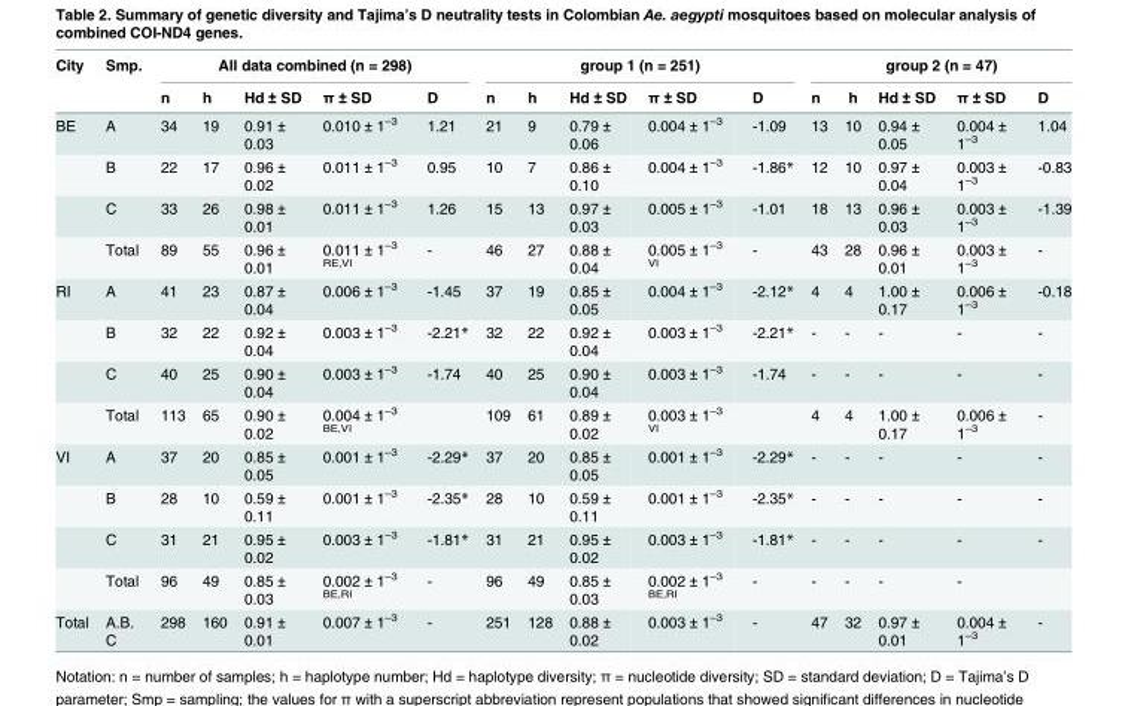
<table><thead><tr><td rowspan="2">City</td><td rowspan="2">Smp.</td><td colspan="5">All data combined (n = 298)</td><td colspan="5">group 1 (n = 251)</td><td colspan="5">group 2 (n = 47)</td></tr><tr><td>n</td><td>h</td><td>Hd ± SD</td><td>π ± SD</td><td>D</td><td>n</td><td>h</td><td>Hd ± SD</td><td>π ± SD</td><td>D</td><td>n</td><td>h</td><td>Hd ± SD</td><td>π ± SD</td><td>D</td></tr></thead><tbody><tr><td rowspan="4">BE</td><td>A</td><td>34</td><td>19</td><td>0.91 ± 0.03</td><td>0.010 ± 1<sup>–3</sup></td><td>1.21</td><td>21</td><td>9</td><td>0.79 ± 0.06</td><td>0.004 ± 1<sup>–3</sup></td><td>-1.09</td><td>13</td><td>10</td><td>0.94 ± 0.05</td><td>0.004 ± 1<sup>–3</sup></td><td>1.04</td></tr><tr><td>B</td><td>22</td><td>17</td><td>0.96 ± 0.02</td><td>0.011 ± 1<sup>–3</sup></td><td>0.95</td><td>10</td><td>7</td><td>0.86 ± 0.10</td><td>0.004 ± 1<sup>–3</sup></td><td>-1.86*</td><td>12</td><td>10</td><td>0.97 ± 0.04</td><td>0.003 ± 1<sup>–3</sup></td><td>-0.83</td></tr><tr><td>C</td><td>33</td><td>26</td><td>0.98 ± 0.01</td><td>0.011 ± 1<sup>–3</sup></td><td>1.26</td><td>15</td><td>13</td><td>0.97 ± 0.03</td><td>0.005 ± 1<sup>–3</sup></td><td>-1.01</td><td>18</td><td>13</td><td>0.96 ± 0.03</td><td>0.003 ± 1<sup>–3</sup></td><td>-1.39</td></tr><tr><td>Total</td><td>89</td><td>55</td><td>0.96 ± 0.01</td><td>0.011 ± 1<sup>–3 RE,VI</sup></td><td>-</td><td>46</td><td>27</td><td>0.88 ± 0.04</td><td>0.005 ± 1<sup>–3 VI</sup></td><td>-</td><td>43</td><td>28</td><td>0.96 ± 0.01</td><td>0.003 ± 1<sup>–3</sup></td><td>-</td></tr><tr><td rowspan="4">RI</td><td>A</td><td>41</td><td>23</td><td>0.87 ± 0.04</td><td>0.006 ± 1<sup>–3</sup></td><td>-1.45</td><td>37</td><td>19</td><td>0.85 ± 0.05</td><td>0.004 ± 1<sup>–3</sup></td><td>-2.12*</td><td>4</td><td>4</td><td>1.00 ± 0.17</td><td>0.006 ± 1<sup>–3</sup></td><td>-0.18</td></tr><tr><td>B</td><td>32</td><td>22</td><td>0.92 ± 0.04</td><td>0.003 ± 1<sup>–3</sup></td><td>-2.21*</td><td>32</td><td>22</td><td>0.92 ± 0.04</td><td>0.003 ± 1<sup>–3</sup></td><td>-2.21*</td><td>-</td><td>-</td><td>-</td><td>-</td><td>-</td></tr><tr><td>C</td><td>40</td><td>25</td><td>0.90 ± 0.04</td><td>0.003 ± 1<sup>–3</sup></td><td>-1.74</td><td>40</td><td>25</td><td>0.90 ± 0.04</td><td>0.003 ± 1<sup>–3</sup></td><td>-1.74</td><td>-</td><td>-</td><td>-</td><td>-</td><td>-</td></tr><tr><td>Total</td><td>113</td><td>65</td><td>0.90 ± 0.02</td><td>0.004 ± 1<sup>–3 BE,VI</sup></td><td></td><td>109</td><td>61</td><td>0.89 ± 0.02</td><td>0.003 ± 1<sup>–3 VI</sup></td><td></td><td>4</td><td>4</td><td>1.00 ± 0.17</td><td>0.006 ± 1<sup>–3</sup></td><td>-</td></tr><tr><td rowspan="4">VI</td><td>A</td><td>37</td><td>20</td><td>0.85 ± 0.05</td><td>0.001 ± 1<sup>–3</sup></td><td>-2.29*</td><td>37</td><td>20</td><td>0.85 ± 0.05</td><td>0.001 ± 1<sup>–3</sup></td><td>-2.29*</td><td>-</td><td>-</td><td>-</td><td>-</td><td>-</td></tr><tr><td>B</td><td>28</td><td>10</td><td>0.59 ± 0.11</td><td>0.001 ± 1<sup>–3</sup></td><td>-2.35*</td><td>28</td><td>10</td><td>0.59 ± 0.11</td><td>0.001 ± 1<sup>–3</sup></td><td>-2.35*</td><td>-</td><td>-</td><td>-</td><td>-</td><td>-</td></tr><tr><td>C</td><td>31</td><td>21</td><td>0.95 ± 0.02</td><td>0.003 ± 1<sup>–3</sup></td><td>-1.81*</td><td>31</td><td>21</td><td>0.95 ± 0.02</td><td>0.003 ± 1<sup>–3</sup></td><td>-1.81*</td><td>-</td><td>-</td><td>-</td><td>-</td><td>-</td></tr><tr><td>Total</td><td>96</td><td>49</td><td>0.85 ± 0.03</td><td>0.002 ± 1<sup>–3 BE,RI</sup></td><td>-</td><td>96</td><td>49</td><td>0.85 ± 0.03</td><td>0.002 ± 1<sup>–3 BE,RI</sup></td><td>-</td><td>-</td><td>-</td><td>-</td><td>-</td><td></td></tr><tr><td>Total</td><td>A.B. C</td><td>298</td><td>160</td><td>0.91 ± 0.01</td><td>0.007 ± 1<sup>–3</sup></td><td>-</td><td>251</td><td>128</td><td>0.88 ± 0.02</td><td>0.003 ± 1<sup>–3</sup></td><td>-</td><td>47</td><td>32</td><td>0.97 ± 0.01</td><td>0.004 ± 1<sup>–3</sup></td><td>-</td></tr></tbody></table>